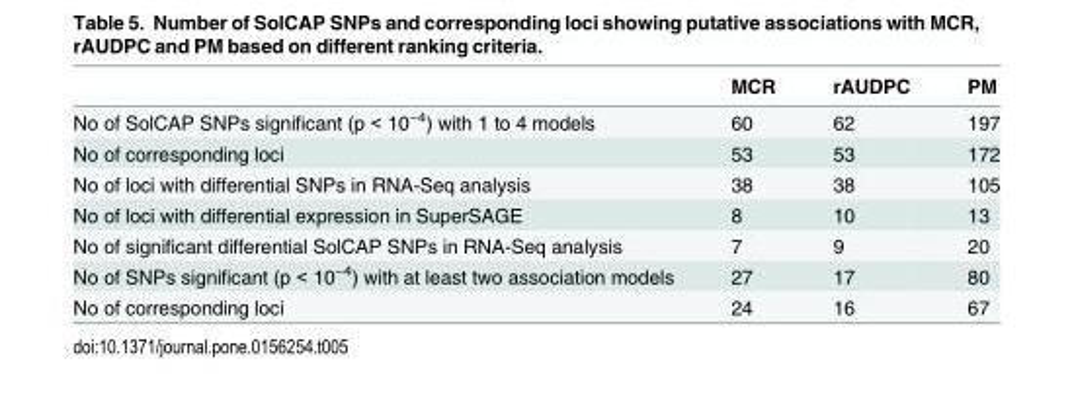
<table><thead><tr><td></td><td>MCR</td><td>rAUDPC</td><td>PM</td></tr></thead><tbody><tr><td>No of SolCAP SNPs significant (p &lt; 10<sup>−4</sup>) with 1 to 4 models</td><td>60</td><td>62</td><td>197</td></tr><tr><td>No of corresponding loci</td><td>53</td><td>53</td><td>172</td></tr><tr><td>No of loci with differential SNPs in RNA-Seq analysis</td><td>38</td><td>38</td><td>105</td></tr><tr><td>No of loci with differential expression in SuperSAGE</td><td>8</td><td>10</td><td>13</td></tr><tr><td>No of significant differential SolCAP SNPs in RNA-Seq analysis</td><td>7</td><td>9</td><td>20</td></tr><tr><td>No of SNPs significant (p &lt; 10<sup>−4</sup>) with at least two association models</td><td>27</td><td>17</td><td>80</td></tr><tr><td>No of corresponding loci</td><td>24</td><td>16</td><td>67</td></tr></tbody></table>